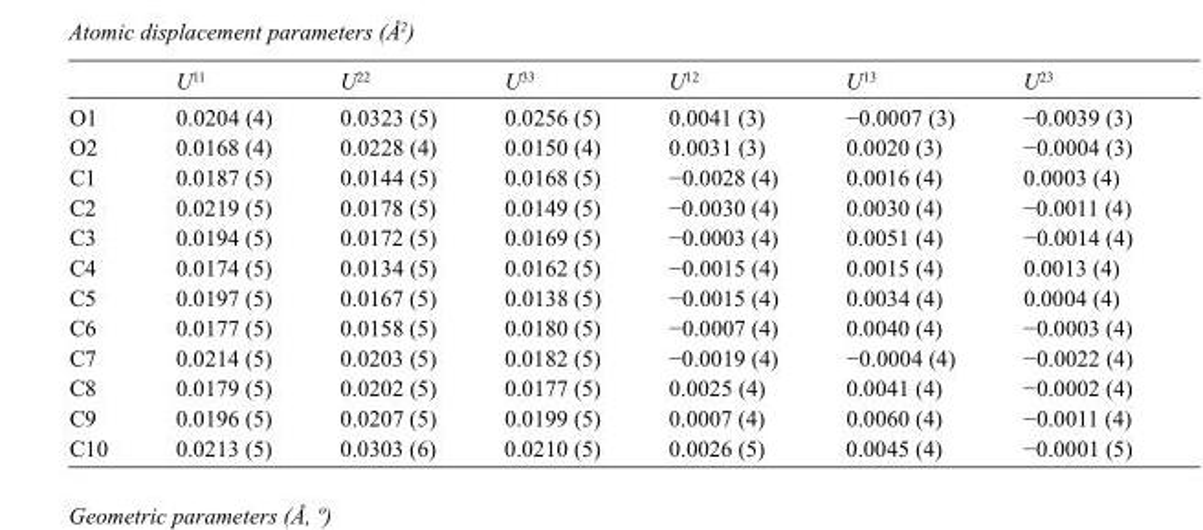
<table><thead><tr><td></td><td>U<sup>11</sup></td><td>U<sup>22</sup></td><td>U<sup>33</sup></td><td>U<sup>12</sup></td><td>U<sup>13</sup></td><td>U<sup>23</sup></td></tr></thead><tbody><tr><td>O1</td><td>0.0204 (4)</td><td>0.0323 (5)</td><td>0.0256 (5)</td><td>0.0041 (3)</td><td>−0.0007 (3)</td><td>−0.0039 (3)</td></tr><tr><td>O2</td><td>0.0168 (4)</td><td>0.0228 (4)</td><td>0.0150 (4)</td><td>0.0031 (3)</td><td>0.0020 (3)</td><td>−0.0004 (3)</td></tr><tr><td>C1</td><td>0.0187 (5)</td><td>0.0144 (5)</td><td>0.0168 (5)</td><td>−0.0028 (4)</td><td>0.0016 (4)</td><td>0.0003 (4)</td></tr><tr><td>C2</td><td>0.0219 (5)</td><td>0.0178 (5)</td><td>0.0149 (5)</td><td>−0.0030 (4)</td><td>0.0030 (4)</td><td>−0.0011 (4)</td></tr><tr><td>C3</td><td>0.0194 (5)</td><td>0.0172 (5)</td><td>0.0169 (5)</td><td>−0.0003 (4)</td><td>0.0051 (4)</td><td>−0.0014 (4)</td></tr><tr><td>C4</td><td>0.0174 (5)</td><td>0.0134 (5)</td><td>0.0162 (5)</td><td>−0.0015 (4)</td><td>0.0015 (4)</td><td>0.0013 (4)</td></tr><tr><td>C5</td><td>0.0197 (5)</td><td>0.0167 (5)</td><td>0.0138 (5)</td><td>−0.0015 (4)</td><td>0.0034 (4)</td><td>0.0004 (4)</td></tr><tr><td>C6</td><td>0.0177 (5)</td><td>0.0158 (5)</td><td>0.0180 (5)</td><td>−0.0007 (4)</td><td>0.0040 (4)</td><td>−0.0003 (4)</td></tr><tr><td>C7</td><td>0.0214 (5)</td><td>0.0203 (5)</td><td>0.0182 (5)</td><td>−0.0019 (4)</td><td>−0.0004 (4)</td><td>−0.0022 (4)</td></tr><tr><td>C8</td><td>0.0179 (5)</td><td>0.0202 (5)</td><td>0.0177 (5)</td><td>0.0025 (4)</td><td>0.0041 (4)</td><td>−0.0002 (4)</td></tr><tr><td>C9</td><td>0.0196 (5)</td><td>0.0207 (5)</td><td>0.0199 (5)</td><td>0.0007 (4)</td><td>0.0060 (4)</td><td>−0.0011 (4)</td></tr><tr><td>C10</td><td>0.0213 (5)</td><td>0.0303 (6)</td><td>0.0210 (5)</td><td>0.0026 (5)</td><td>0.0045 (4)</td><td>−0.0001 (5)</td></tr></tbody></table>